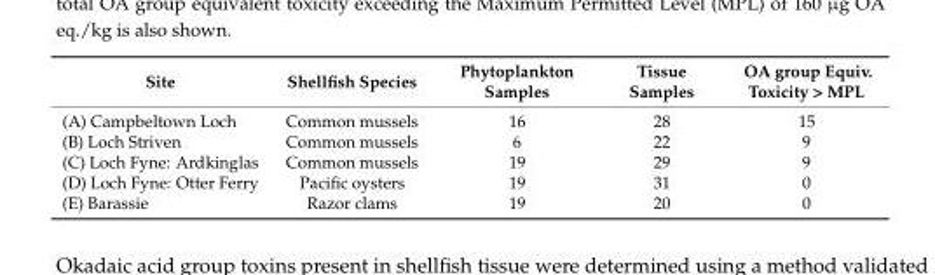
<table><thead><tr><td>Site</td><td>Shellfish Species</td><td>Phytoplankton Samples</td><td>Tissue Samples</td><td>OA group Equiv. Toxicity &gt; MPL</td></tr></thead><tbody><tr><td>(A) Campbeltown Loch</td><td>Common mussels</td><td>16</td><td>28</td><td>15</td></tr><tr><td>(B) Loch Striven</td><td>Common mussels</td><td>6</td><td>22</td><td>9</td></tr><tr><td>(C) Loch Fyne: Ardkinglas</td><td>Common mussels</td><td>19</td><td>29</td><td>9</td></tr><tr><td>(D) Loch Fyne: Otter Ferry</td><td>Pacific oysters</td><td>19</td><td>31</td><td>0</td></tr><tr><td>(E) Barassie</td><td>Razor clams</td><td>19</td><td>20</td><td>0</td></tr></tbody></table>